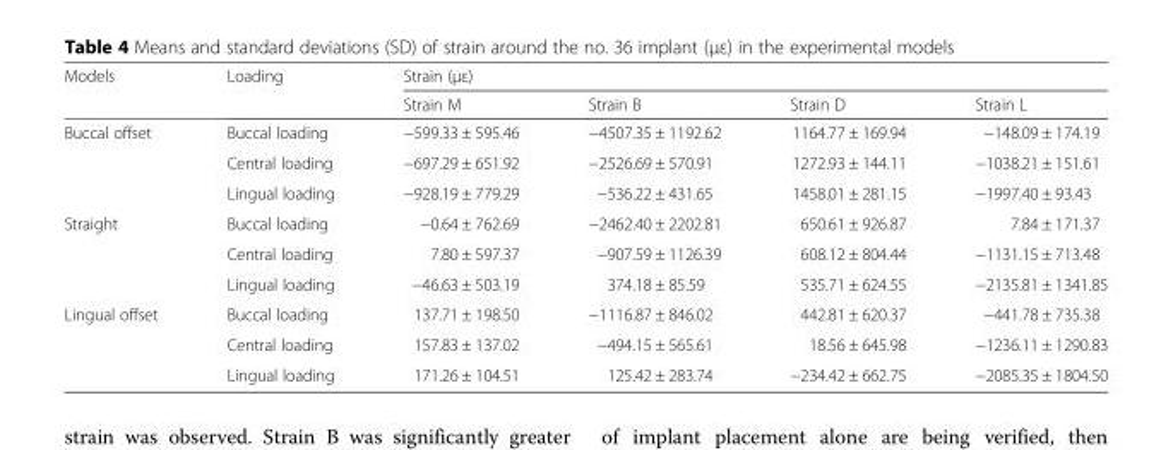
<table><thead><tr><td rowspan="2">Models</td><td rowspan="2">Loading</td><td colspan="4">Strain (με)</td></tr><tr><td>Strain M</td><td>Strain B</td><td>Strain D</td><td>Strain L</td></tr></thead><tbody><tr><td rowspan="3">Buccal offset</td><td>Buccal loading</td><td>−599.33 ± 595.46</td><td>−4507.35 ± 1192.62</td><td>1164.77 ± 169.94</td><td>−148.09 ± 174.19</td></tr><tr><td>Central loading</td><td>−697.29 ± 651.92</td><td>−2526.69 ± 570.91</td><td>1272.93 ± 144.11</td><td>−1038.21 ± 151.61</td></tr><tr><td>Lingual loading</td><td>−928.19 ± 779.29</td><td>−536.22 ± 431.65</td><td>1458.01 ± 281.15</td><td>−1997.40 ± 93.43</td></tr><tr><td rowspan="3">Straight</td><td>Buccal loading</td><td>−0.64 ± 762.69</td><td>−2462.40 ± 2202.81</td><td>650.61 ± 926.87</td><td>7.84 ± 171.37</td></tr><tr><td>Central loading</td><td>7.80 ± 597.37</td><td>−907.59 ± 1126.39</td><td>608.12 ± 804.44</td><td>−1131.15 ± 713.48</td></tr><tr><td>Lingual loading</td><td>−46.63 ± 503.19</td><td>374.18 ± 85.59</td><td>535.71 ± 624.55</td><td>−2135.81 ± 1341.85</td></tr><tr><td rowspan="3">Lingual offset</td><td>Buccal loading</td><td>137.71 ± 198.50</td><td>−1116.87 ± 846.02</td><td>442.81 ± 620.37</td><td>−441.78 ± 735.38</td></tr><tr><td>Central loading</td><td>157.83 ± 137.02</td><td>−494.15 ± 565.61</td><td>18.56 ± 645.98</td><td>−1236.11 ± 1290.83</td></tr><tr><td>Lingual loading</td><td>171.26 ± 104.51</td><td>125.42 ± 283.74</td><td>−234.42 ± 662.75</td><td>−2085.35 ± 1804.50</td></tr></tbody></table>